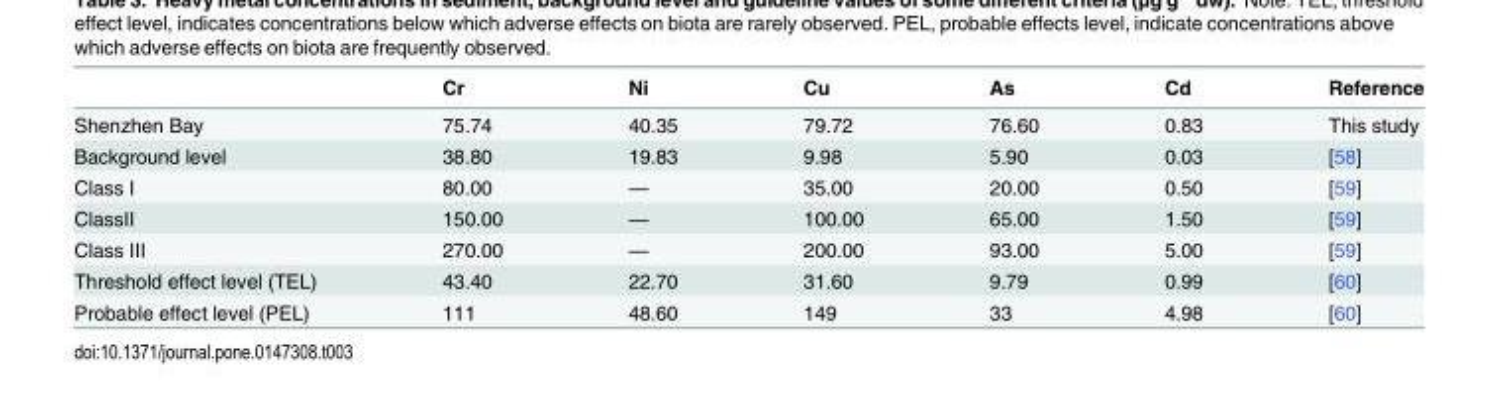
<table><thead><tr><td></td><td>Cr</td><td>Ni</td><td>Cu</td><td>As</td><td>Cd</td><td>Reference</td></tr></thead><tbody><tr><td>Shenzhen Bay</td><td>75.74</td><td>40.35</td><td>79.72</td><td>76.60</td><td>0.83</td><td>This study</td></tr><tr><td>Background level</td><td>38.80</td><td>19.83</td><td>9.98</td><td>5.90</td><td>0.03</td><td>[58]</td></tr><tr><td>Class Ⅰ</td><td>80.00</td><td>—</td><td>35.00</td><td>20.00</td><td>0.50</td><td>[59]</td></tr><tr><td>ClassⅡ</td><td>150.00</td><td>—</td><td>100.00</td><td>65.00</td><td>1.50</td><td>[59]</td></tr><tr><td>Class Ⅲ</td><td>270.00</td><td>—</td><td>200.00</td><td>93.00</td><td>5.00</td><td>[59]</td></tr><tr><td>Threshold effect level (TEL)</td><td>43.40</td><td>22.70</td><td>31.60</td><td>9.79</td><td>0.99</td><td>[60]</td></tr><tr><td>Probable effect level (PEL)</td><td>111</td><td>48.60</td><td>149</td><td>33</td><td>4.98</td><td>[60]</td></tr></tbody></table>